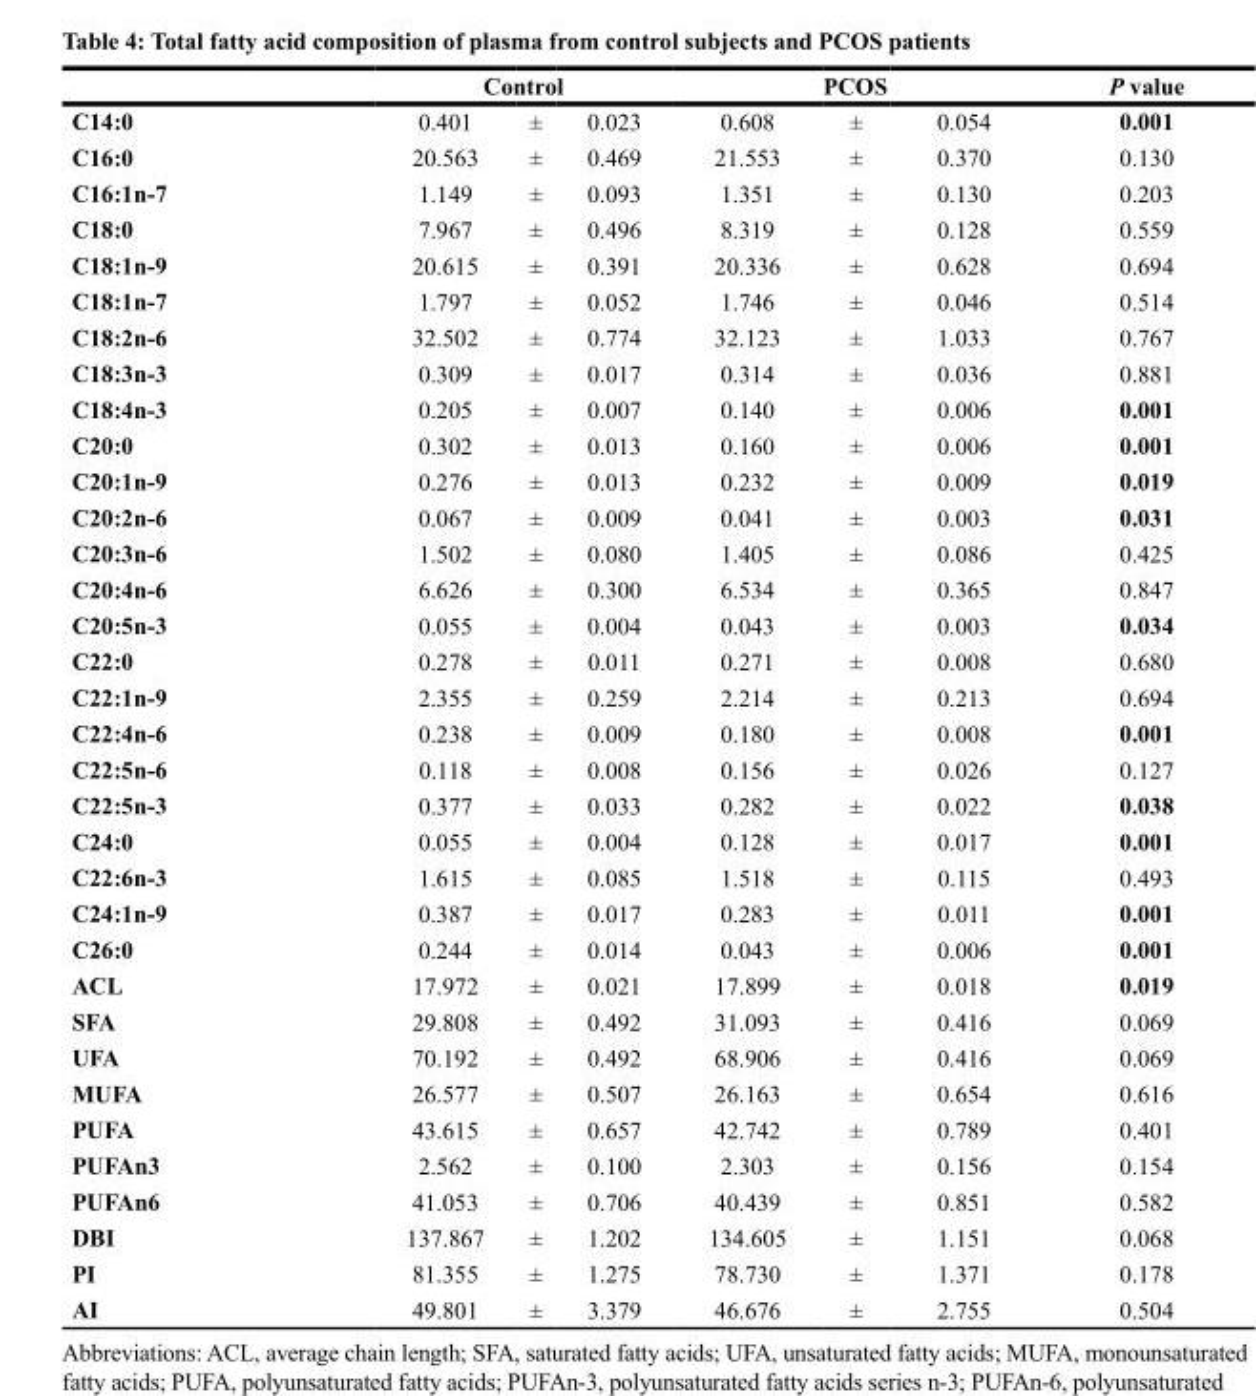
<table><thead><tr><td rowspan="2">C14:0</td><td colspan="3">Control</td><td colspan="3">PCOS</td><td rowspan="2">P value 0.001</td></tr><tr><td>0.401</td><td>±</td><td>0.023</td><td>0.608</td><td>±</td><td>0.054</td></tr></thead><tbody><tr><td>C16:0</td><td>20.563</td><td>±</td><td>0.469</td><td>21.553</td><td>±</td><td>0.370</td><td>0.130</td></tr><tr><td>C16:1n-7</td><td>1.149</td><td>±</td><td>0.093</td><td>1.351</td><td>±</td><td>0.130</td><td>0.203</td></tr><tr><td>C18:0</td><td>7.967</td><td>±</td><td>0.496</td><td>8.319</td><td>±</td><td>0.128</td><td>0.559</td></tr><tr><td>C18:1n-9</td><td>20.615</td><td>±</td><td>0.391</td><td>20.336</td><td>±</td><td>0.628</td><td>0.694</td></tr><tr><td>C18:1n-7</td><td>1.797</td><td>±</td><td>0.052</td><td>1.746</td><td>±</td><td>0.046</td><td>0.514</td></tr><tr><td>C18:2n-6</td><td>32.502</td><td>±</td><td>0.774</td><td>32.123</td><td>±</td><td>1.033</td><td>0.767</td></tr><tr><td>C18:3n-3</td><td>0.309</td><td>±</td><td>0.017</td><td>0.314</td><td>±</td><td>0.036</td><td>0.881</td></tr><tr><td>C18:4n-3</td><td>0.205</td><td>±</td><td>0.007</td><td>0.140</td><td>±</td><td>0.006</td><td>0.001</td></tr><tr><td>C20:0</td><td>0.302</td><td>±</td><td>0.013</td><td>0.160</td><td>±</td><td>0.006</td><td>0.001</td></tr><tr><td>C20:1n-9</td><td>0.276</td><td>±</td><td>0.013</td><td>0.232</td><td>±</td><td>0.009</td><td>0.019</td></tr><tr><td>C20:2n-6</td><td>0.067</td><td>±</td><td>0.009</td><td>0.041</td><td>±</td><td>0.003</td><td>0.031</td></tr><tr><td>C20:3n-6</td><td>1.502</td><td>±</td><td>0.080</td><td>1.405</td><td>±</td><td>0.086</td><td>0.425</td></tr><tr><td>C20:4n-6</td><td>6.626</td><td>±</td><td>0.300</td><td>6.534</td><td>±</td><td>0.365</td><td>0.847</td></tr><tr><td>C20:5n-3</td><td>0.055</td><td>±</td><td>0.004</td><td>0.043</td><td>±</td><td>0.003</td><td>0.034</td></tr><tr><td>C22:0</td><td>0.278</td><td>±</td><td>0.011</td><td>0.271</td><td>±</td><td>0.008</td><td>0.680</td></tr><tr><td>C22:1n-9</td><td>2.355</td><td>±</td><td>0.259</td><td>2.214</td><td>±</td><td>0.213</td><td>0.694</td></tr><tr><td>C22:4n-6</td><td>0.238</td><td>±</td><td>0.009</td><td>0.180</td><td>±</td><td>0.008</td><td>0.001</td></tr><tr><td>C22:5n-6</td><td>0.118</td><td>±</td><td>0.008</td><td>0.156</td><td>±</td><td>0.026</td><td>0.127</td></tr><tr><td>C22:5n-3</td><td>0.377</td><td>±</td><td>0.033</td><td>0.282</td><td>±</td><td>0.022</td><td>0.038</td></tr><tr><td>C24:0</td><td>0.055</td><td>±</td><td>0.004</td><td>0.128</td><td>±</td><td>0.017</td><td>0.001</td></tr><tr><td>C22:6n-3</td><td>1.615</td><td>±</td><td>0.085</td><td>1.518</td><td>±</td><td>0.115</td><td>0.493</td></tr><tr><td>C24:1n-9</td><td>0.387</td><td>±</td><td>0.017</td><td>0.283</td><td>±</td><td>0.011</td><td>0.001</td></tr><tr><td>C26:0</td><td>0.244</td><td>±</td><td>0.014</td><td>0.043</td><td>±</td><td>0.006</td><td>0.001</td></tr><tr><td>ACL</td><td>17.972</td><td>±</td><td>0.021</td><td>17.899</td><td>±</td><td>0.018</td><td>0.019</td></tr><tr><td>SFA</td><td>29.808</td><td>±</td><td>0.492</td><td>31.093</td><td>±</td><td>0.416</td><td>0.069</td></tr><tr><td>UFA</td><td>70.192</td><td>±</td><td>0.492</td><td>68.906</td><td>±</td><td>0.416</td><td>0.069</td></tr><tr><td>MUFA</td><td>26.577</td><td>±</td><td>0.507</td><td>26.163</td><td>±</td><td>0.654</td><td>0.616</td></tr><tr><td>PUFA</td><td>43.615</td><td>±</td><td>0.657</td><td>42.742</td><td>±</td><td>0.789</td><td>0.401</td></tr><tr><td>PUFAn3</td><td>2.562</td><td>±</td><td>0.100</td><td>2.303</td><td>±</td><td>0.156</td><td>0.154</td></tr><tr><td>PUFAn6</td><td>41.053</td><td>±</td><td>0.706</td><td>40.439</td><td>±</td><td>0.851</td><td>0.582</td></tr><tr><td>DBI</td><td>137.867</td><td>±</td><td>1.202</td><td>134.605</td><td>±</td><td>1.151</td><td>0.068</td></tr><tr><td>PI</td><td>81.355</td><td>±</td><td>1.275</td><td>78.730</td><td>±</td><td>1.371</td><td>0.178</td></tr><tr><td>AI</td><td>49.801</td><td>±</td><td>3.379</td><td>46.676</td><td>±</td><td>2.755</td><td>0.504</td></tr></tbody></table>